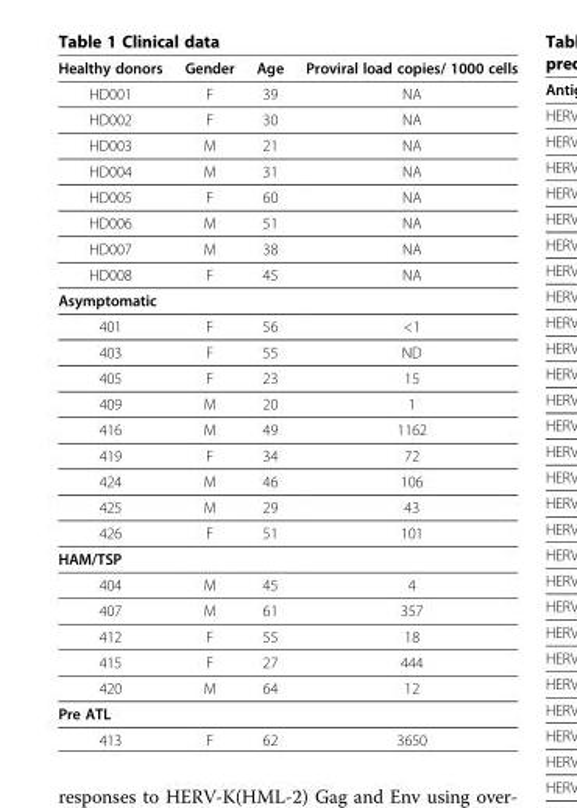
<table><thead><tr><td>Healthy donors</td><td>Gender</td><td>Age</td><td>Proviral load copies/ 1000 cells</td></tr></thead><tbody><tr><td>HD001</td><td>F</td><td>39</td><td>NA</td></tr><tr><td>HD002</td><td>F</td><td>30</td><td>NA</td></tr><tr><td>HD003</td><td>M</td><td>21</td><td>NA</td></tr><tr><td>HD004</td><td>M</td><td>31</td><td>NA</td></tr><tr><td>HD005</td><td>F</td><td>60</td><td>NA</td></tr><tr><td>HD006</td><td>M</td><td>51</td><td>NA</td></tr><tr><td>HD007</td><td>M</td><td>38</td><td>NA</td></tr><tr><td>HD008</td><td>F</td><td>45</td><td>NA</td></tr><tr><td colspan="4">Asymptomatic</td></tr><tr><td>401</td><td>F</td><td>56</td><td>&lt;1</td></tr><tr><td>403</td><td>F</td><td>55</td><td>ND</td></tr><tr><td>405</td><td>F</td><td>23</td><td>15</td></tr><tr><td>409</td><td>M</td><td>20</td><td>1</td></tr><tr><td>416</td><td>M</td><td>49</td><td>1162</td></tr><tr><td>419</td><td>F</td><td>34</td><td>72</td></tr><tr><td>424</td><td>M</td><td>46</td><td>106</td></tr><tr><td>425</td><td>M</td><td>29</td><td>43</td></tr><tr><td>426</td><td>F</td><td>51</td><td>101</td></tr><tr><td colspan="4">HAM/TSP</td></tr><tr><td>404</td><td>M</td><td>45</td><td>4</td></tr><tr><td>407</td><td>M</td><td>61</td><td>357</td></tr><tr><td>412</td><td>F</td><td>55</td><td>18</td></tr><tr><td>415</td><td>F</td><td>27</td><td>444</td></tr><tr><td>420</td><td>M</td><td>64</td><td>12</td></tr><tr><td colspan="4">Pre ATL</td></tr><tr><td>413</td><td>F</td><td>62</td><td>3650</td></tr></tbody></table>